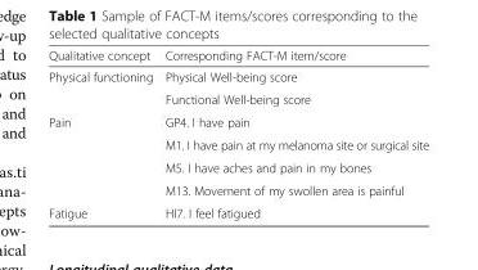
<table><thead><tr><td>Qualitative concept</td><td>Corresponding FACT-M item/score</td></tr></thead><tbody><tr><td rowspan="2">Physical functioning</td><td>Physical Well-being score</td></tr><tr><td>Functional Well-being score</td></tr><tr><td rowspan="4">Pain</td><td>GP4. I have pain</td></tr><tr><td>M1. I have pain at my melanoma site or surgical site</td></tr><tr><td>M5. I have aches and pain in my bones</td></tr><tr><td>M13. Movement of my swollen area is painful</td></tr><tr><td>Fatigue</td><td>HI7. I feel fatigued</td></tr></tbody></table>